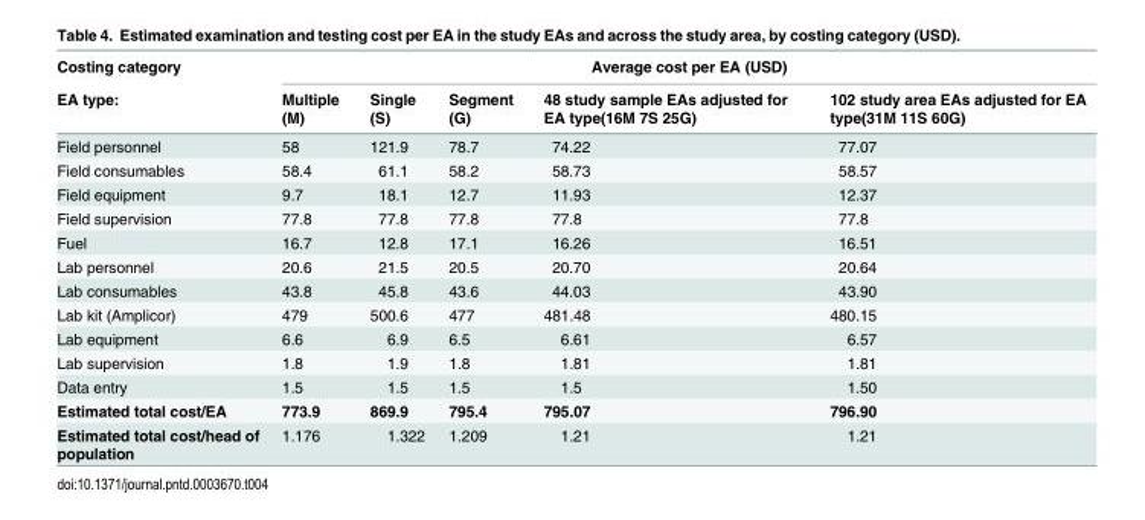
<table><thead><tr><td rowspan="2">Costing category EA type:</td><td colspan="5">Average cost per EA (USD)</td></tr><tr><td>Multiple (M)</td><td>Single (S)</td><td>Segment (G)</td><td>48 study sample EAs adjusted for EA type(16M 7S 25G)</td><td>102 study area EAs adjusted for EA type(31M 11S 60G)</td></tr></thead><tbody><tr><td>Field personnel</td><td>58</td><td>121.9</td><td>78.7</td><td>74.22</td><td>77.07</td></tr><tr><td>Field consumables</td><td>58.4</td><td>61.1</td><td>58.2</td><td>58.73</td><td>58.57</td></tr><tr><td>Field equipment</td><td>9.7</td><td>18.1</td><td>12.7</td><td>11.93</td><td>12.37</td></tr><tr><td>Field supervision</td><td>77.8</td><td>77.8</td><td>77.8</td><td>77.8</td><td>77.8</td></tr><tr><td>Fuel</td><td>16.7</td><td>12.8</td><td>17.1</td><td>16.26</td><td>16.51</td></tr><tr><td>Lab personnel</td><td>20.6</td><td>21.5</td><td>20.5</td><td>20.70</td><td>20.64</td></tr><tr><td>Lab consumables</td><td>43.8</td><td>45.8</td><td>43.6</td><td>44.03</td><td>43.90</td></tr><tr><td>Lab kit (Amplicor)</td><td>479</td><td>500.6</td><td>477</td><td>481.48</td><td>480.15</td></tr><tr><td>Lab equipment</td><td>6.6</td><td>6.9</td><td>6.5</td><td>6.61</td><td>6.57</td></tr><tr><td>Lab supervision</td><td>1.8</td><td>1.9</td><td>1.8</td><td>1.81</td><td>1.81</td></tr><tr><td>Data entry</td><td>1.5</td><td>1.5</td><td>1.5</td><td>1.5</td><td>1.50</td></tr><tr><td>Estimated total cost/EA</td><td>773.9</td><td>869.9</td><td>795.4</td><td>795.07</td><td>796.90</td></tr><tr><td>Estimated total cost/head of population</td><td>1.176</td><td>1.322</td><td>1.209</td><td>1.21</td><td>1.21</td></tr></tbody></table>